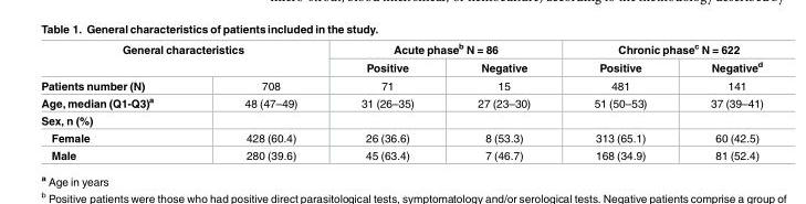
<table><thead><tr><td rowspan="2" colspan="2">General characteristics</td><td colspan="2">Acute phase<sup>b</sup> N = 86</td><td colspan="2">Chronic phase<sup>c</sup> N = 622</td></tr><tr><td rowspan="2">Positive 71</td><td rowspan="2">Negative 15</td><td rowspan="2">Positive 481</td><td rowspan="2">Negative<sup>d</sup> 141</td></tr><tr><td>Patients number (N)</td><td>708</td></tr></thead><tbody><tr><td>Age, median (Q1-Q3)<sup>a</sup></td><td>48 (47–49)</td><td>31 (26–35)</td><td>27 (23–30)</td><td>51 (50–53)</td><td>37 (39–41)</td></tr><tr><td colspan="6">Sex, n (%)</td></tr><tr><td>Female</td><td>428 (60.4)</td><td>26 (36.6)</td><td>8 (53.3)</td><td>313 (65.1)</td><td>60 (42.5)</td></tr><tr><td>Male</td><td>280 (39.6)</td><td>45 (63.4)</td><td>7 (46.7)</td><td>168 (34.9)</td><td>81 (52.4)</td></tr></tbody></table>